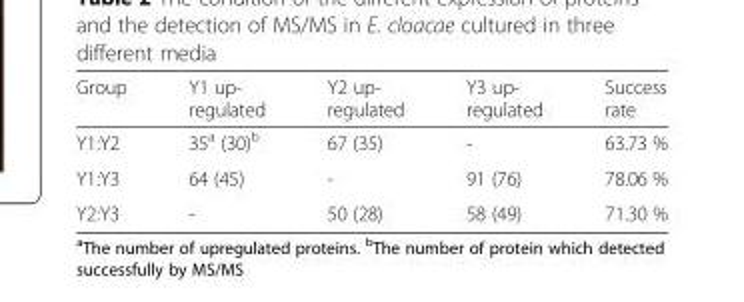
<table><thead><tr><td>Group</td><td>Y1 up- regulated</td><td>Y2 up- regulated</td><td>Y3 up- regulated</td><td>Success rate</td></tr></thead><tbody><tr><td>Y1:Y2</td><td>35<sup>a</sup> (30)<sup>b</sup></td><td>67 (35)</td><td>-</td><td>63.73 %</td></tr><tr><td>Y1:Y3</td><td>64 (45)</td><td>-</td><td>91 (76)</td><td>78.06 %</td></tr><tr><td>Y2:Y3</td><td>-</td><td>50 (28)</td><td>58 (49)</td><td>71.30 %</td></tr></tbody></table>